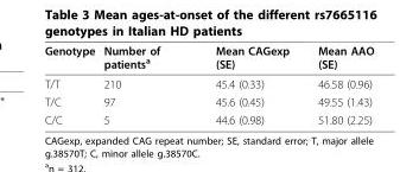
<table><thead><tr><td>Genotype</td><td>Number of patients<sup>a</sup></td><td>Mean CAGexp (SE)</td><td>Mean AAO (SE)</td></tr></thead><tbody><tr><td>T/T</td><td>210</td><td>45.4 (0.33)</td><td>46.58 (0.96)</td></tr><tr><td>T/C</td><td>97</td><td>45.6 (0.45)</td><td>49.55 (1.43)</td></tr><tr><td>C/C</td><td>5</td><td>44.6 (0.98)</td><td>51.80 (2.25)</td></tr></tbody></table>